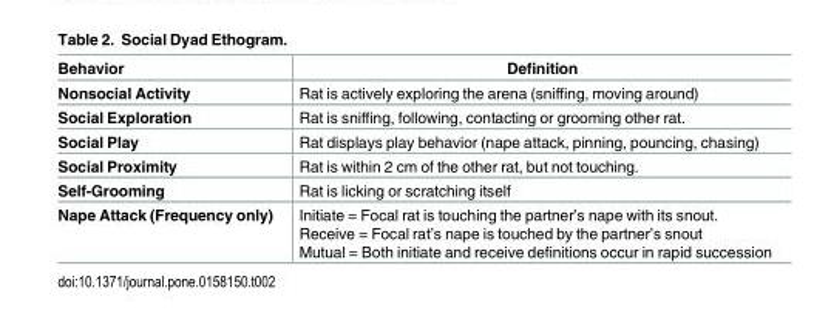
<table><thead><tr><td>Behavior</td><td>Definition</td></tr></thead><tbody><tr><td>Nonsocial Activity</td><td>Rat is actively exploring the arena (sniffing, moving around)</td></tr><tr><td>Social Exploration</td><td>Rat is sniffing, following, contacting or grooming other rat.</td></tr><tr><td>Social Play</td><td>Rat displays play behavior (nape attack, pinning, pouncing, chasing)</td></tr><tr><td>Social Proximity</td><td>Rat is within 2 cm of the other rat, but not touching.</td></tr><tr><td>Self-Grooming</td><td>Rat is licking or scratching itself</td></tr><tr><td>Nape Attack (Frequency only)</td><td>Initiate = Focal rat is touching the partner’s nape with its snout. Receive = Focal rat’s nape is touched by the partner’s snout Mutual = Both initiate and receive definitions occur in rapid succession</td></tr></tbody></table>